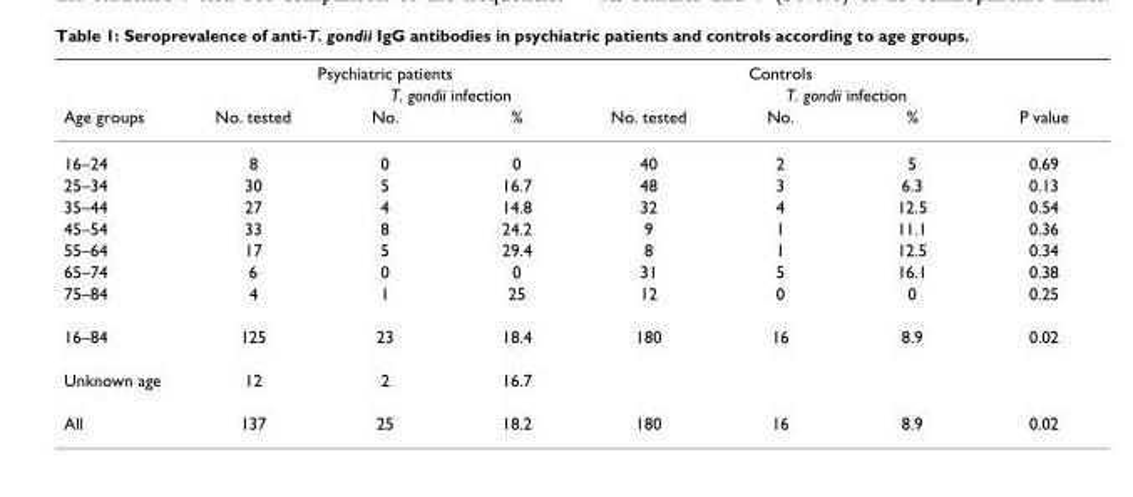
<table><thead><tr><td rowspan="3">Age groups</td><td colspan="3">Psychiatric patients</td><td colspan="3">Controls</td><td rowspan="3">P value</td></tr><tr><td rowspan="2">No. tested</td><td colspan="2">T. gondii infection</td><td rowspan="2">No. tested</td><td colspan="2">T. gondii infection</td></tr><tr><td>No.</td><td>%</td><td>No.</td><td>%</td></tr></thead><tbody><tr><td>16–24</td><td>8</td><td>0</td><td>0</td><td>40</td><td>2</td><td>5</td><td>0.69</td></tr><tr><td>25–34</td><td>30</td><td>5</td><td>16.7</td><td>48</td><td>3</td><td>6.3</td><td>0.13</td></tr><tr><td>35–44</td><td>27</td><td>4</td><td>14.8</td><td>32</td><td>4</td><td>12.5</td><td>0.54</td></tr><tr><td>45–54</td><td>33</td><td>8</td><td>24.2</td><td>9</td><td>1</td><td>11.1</td><td>0.36</td></tr><tr><td>55–64</td><td>17</td><td>5</td><td>29.4</td><td>8</td><td>1</td><td>12.5</td><td>0.34</td></tr><tr><td>65–74</td><td>6</td><td>0</td><td>0</td><td>31</td><td>5</td><td>16.1</td><td>0.38</td></tr><tr><td>75–84</td><td>4</td><td>1</td><td>25</td><td>12</td><td>0</td><td>0</td><td>0.25</td></tr><tr><td>16–84</td><td>125</td><td>23</td><td>18.4</td><td>180</td><td>16</td><td>8.9</td><td>0.02</td></tr><tr><td>Unknown age</td><td>12</td><td>2</td><td>16.7</td><td></td><td></td><td></td><td></td></tr><tr><td>All</td><td>137</td><td>25</td><td>18.2</td><td>180</td><td>16</td><td>8.9</td><td>0.02</td></tr></tbody></table>